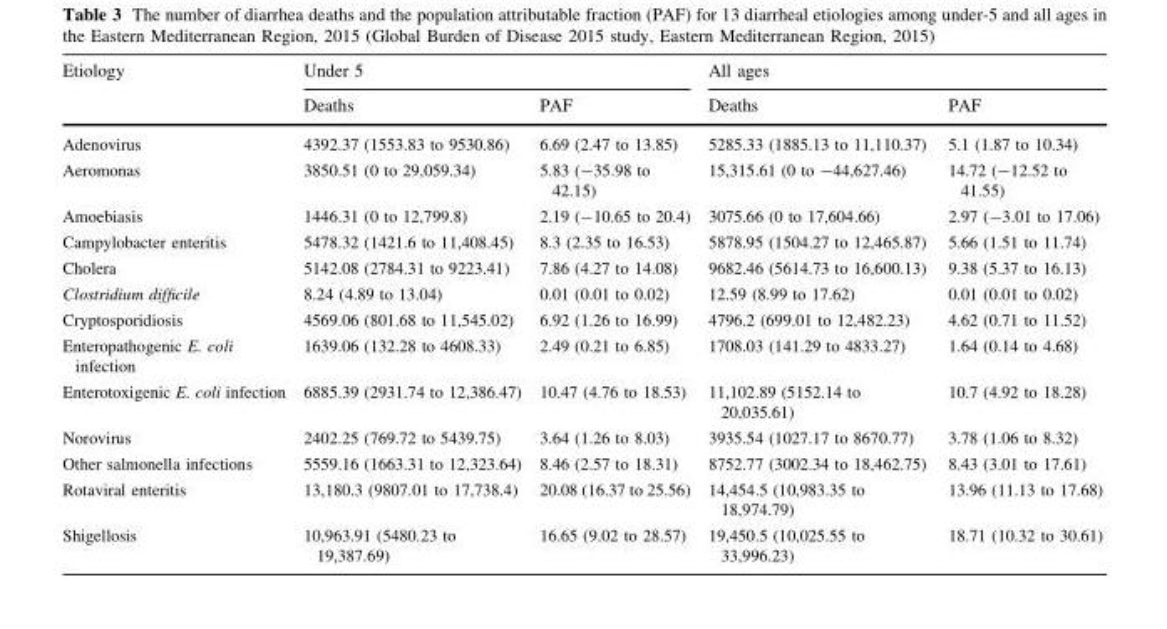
<table><thead><tr><td rowspan="2">Etiology</td><td colspan="2">Under 5</td><td colspan="2">All ages</td></tr><tr><td>Deaths</td><td>PAF</td><td>Deaths</td><td>PAF</td></tr></thead><tbody><tr><td>Adenovirus</td><td>4392.37 (1553.83 to 9530.86)</td><td>6.69 (2.47 to 13.85)</td><td>5285.33 (1885.13 to 11,110.37)</td><td>5.1 (1.87 to 10.34)</td></tr><tr><td>Aeromonas</td><td>3850.51 (0 to 29,059.34)</td><td>5.83 (-35.98 to 42.15)</td><td>15,315.61 (0 to -44,627.46)</td><td>14.72 (-12.52 to 41.55)</td></tr><tr><td>Amoebiasis</td><td>1446.31 (0 to 12,799.8)</td><td>2.19 (-10.65 to 20.4)</td><td>3075.66 (0 to 17,604.66)</td><td>2.97 (-3.01 to 17.06)</td></tr><tr><td>Campylobacter enteritis</td><td>5478.32 (1421.6 to 11,408.45)</td><td>8.3 (2.35 to 16.53)</td><td>5878.95 (1504.27 to 12,465.87)</td><td>5.66 (1.51 to 11.74)</td></tr><tr><td>Cholera</td><td>5142.08 (2784.31 to 9223.41)</td><td>7.86 (4.27 to 14.08)</td><td>9682.46 (5614.73 to 16,600.13)</td><td>9.38 (5.37 to 16.13)</td></tr><tr><td>Clostridium difficile</td><td>8.24 (4.89 to 13.04)</td><td>0.01 (0.01 to 0.02)</td><td>12.59 (8.99 to 17.62)</td><td>0.01 (0.01 to 0.02)</td></tr><tr><td>Cryptosporidiosis</td><td>4569.06 (801.68 to 11,545.02)</td><td>6.92 (1.26 to 16.99)</td><td>4796.2 (699.01 to 12,482.23)</td><td>4.62 (0.71 to 11.52)</td></tr><tr><td>Enteropathogenic E. coli infection</td><td>1639.06 (132.28 to 4608.33)</td><td>2.49 (0.21 to 6.85)</td><td>1708.03 (141.29 to 4833.27)</td><td>1.64 (0.14 to 4.68)</td></tr><tr><td>Enterotoxigenic E. coli infection</td><td>6885.39 (2931.74 to 12,386.47)</td><td>10.47 (4.76 to 18.53)</td><td>11,102.89 (5152.14 to 20,035.61)</td><td>10.7 (4.92 to 18.28)</td></tr><tr><td>Norovirus</td><td>2402.25 (769.72 to 5439.75)</td><td>3.64 (1.26 to 8.03)</td><td>3935.54 (1027.17 to 8670.77)</td><td>3.78 (1.06 to 8.32)</td></tr><tr><td>Other salmonella infections</td><td>5559.16 (1663.31 to 12,323.64)</td><td>8.46 (2.57 to 18.31)</td><td>8752.77 (3002.34 to 18,462.75)</td><td>8.43 (3.01 to 17.61)</td></tr><tr><td>Rotaviral enteritis</td><td>13,180.3 (9807.01 to 17,738.4)</td><td>20.08 (16.37 to 25.56)</td><td>14,454.5 (10,983.35 to 18,974.79)</td><td>13.96 (11.13 to 17.68)</td></tr><tr><td>Shigellosis</td><td>10,963.91 (5480.23 to 19,387.69)</td><td>16.65 (9.02 to 28.57)</td><td>19,450.5 (10,025.55 to 33,996.23)</td><td>18.71 (10.32 to 30.61)</td></tr></tbody></table>